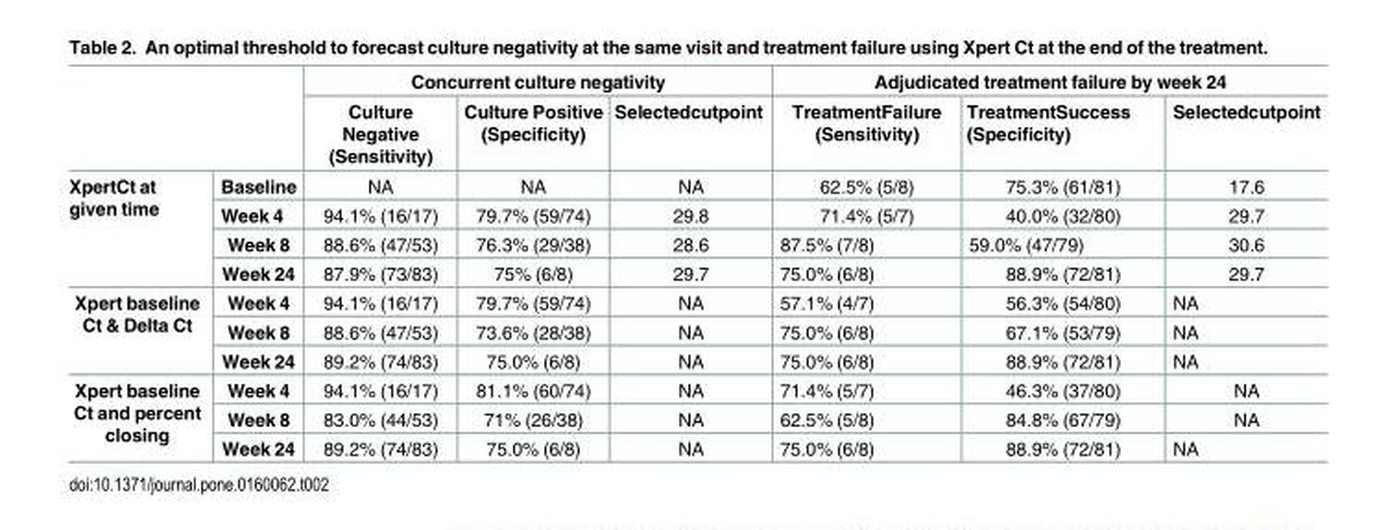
<table><thead><tr><td rowspan="2"></td><td rowspan="2"></td><td colspan="3">Concurrent culture negativity</td><td colspan="3">Adjudicated treatment failure by week 24</td></tr><tr><td>Culture Negative (Sensitivity)</td><td>Culture Positive (Specificity)</td><td>Selectedcutpoint</td><td>TreatmentFailure (Sensitivity)</td><td>TreatmentSuccess (Specificity)</td><td>Selectedcutpoint</td></tr></thead><tbody><tr><td rowspan="4">XpertCt at given time</td><td>Baseline</td><td>NA</td><td>NA</td><td>NA</td><td>62.5% (5/8)</td><td>75.3% (61/81)</td><td>17.6</td></tr><tr><td>Week 4</td><td>94.1% (16/17)</td><td>79.7% (59/74)</td><td>29.8</td><td>71.4% (5/7)</td><td>40.0% (32/80)</td><td>29.7</td></tr><tr><td>Week 8</td><td>88.6% (47/53)</td><td>76.3% (29/38)</td><td>28.6</td><td>87.5% (7/8)</td><td>59.0% (47/79)</td><td>30.6</td></tr><tr><td>Week 24</td><td>87.9% (73/83)</td><td>75% (6/8)</td><td>29.7</td><td>75.0% (6/8)</td><td>88.9% (72/81)</td><td>29.7</td></tr><tr><td rowspan="3">Xpert baseline Ct &amp; Delta Ct</td><td>Week 4</td><td>94.1% (16/17)</td><td>79.7% (59/74)</td><td>NA</td><td>57.1% (4/7)</td><td>56.3% (54/80)</td><td>NA</td></tr><tr><td>Week 8</td><td>88.6% (47/53)</td><td>73.6% (28/38)</td><td>NA</td><td>75.0% (6/8)</td><td>67.1% (53/79)</td><td>NA</td></tr><tr><td>Week 24</td><td>89.2% (74/83)</td><td>75.0% (6/8)</td><td>NA</td><td>75.0% (6/8)</td><td>88.9% (72/81)</td><td>NA</td></tr><tr><td rowspan="3">Xpert baseline Ct and percent closing</td><td>Week 4</td><td>94.1% (16/17)</td><td>81.1% (60/74)</td><td>NA</td><td>71.4% (5/7)</td><td>46.3% (37/80)</td><td>NA</td></tr><tr><td>Week 8</td><td>83.0% (44/53)</td><td>71% (26/38)</td><td>NA</td><td>62.5% (5/8)</td><td>84.8% (67/79)</td><td>NA</td></tr><tr><td>Week 24</td><td>89.2% (74/83)</td><td>75.0% (6/8)</td><td>NA</td><td>75.0% (6/8)</td><td>88.9% (72/81)</td><td>NA</td></tr></tbody></table>